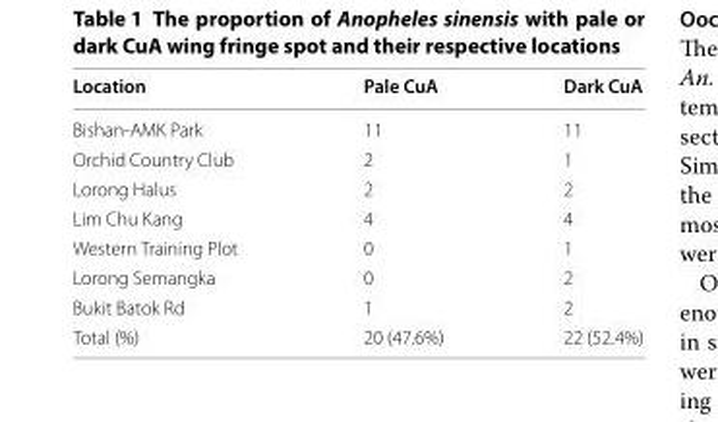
<table><thead><tr><td>Location</td><td>Pale CuA</td><td>Dark CuA</td></tr></thead><tbody><tr><td>Bishan‑AMK Park</td><td>11</td><td>11</td></tr><tr><td>Orchid Country Club</td><td>2</td><td>1</td></tr><tr><td>Lorong Halus</td><td>2</td><td>2</td></tr><tr><td>Lim Chu Kang</td><td>4</td><td>4</td></tr><tr><td>Western Training Plot</td><td>0</td><td>1</td></tr><tr><td>Lorong Semangka</td><td>0</td><td>2</td></tr><tr><td>Bukit Batok Rd</td><td>1</td><td>2</td></tr><tr><td>Total (%)</td><td>20 (47.6%)</td><td>22 (52.4%)</td></tr></tbody></table>